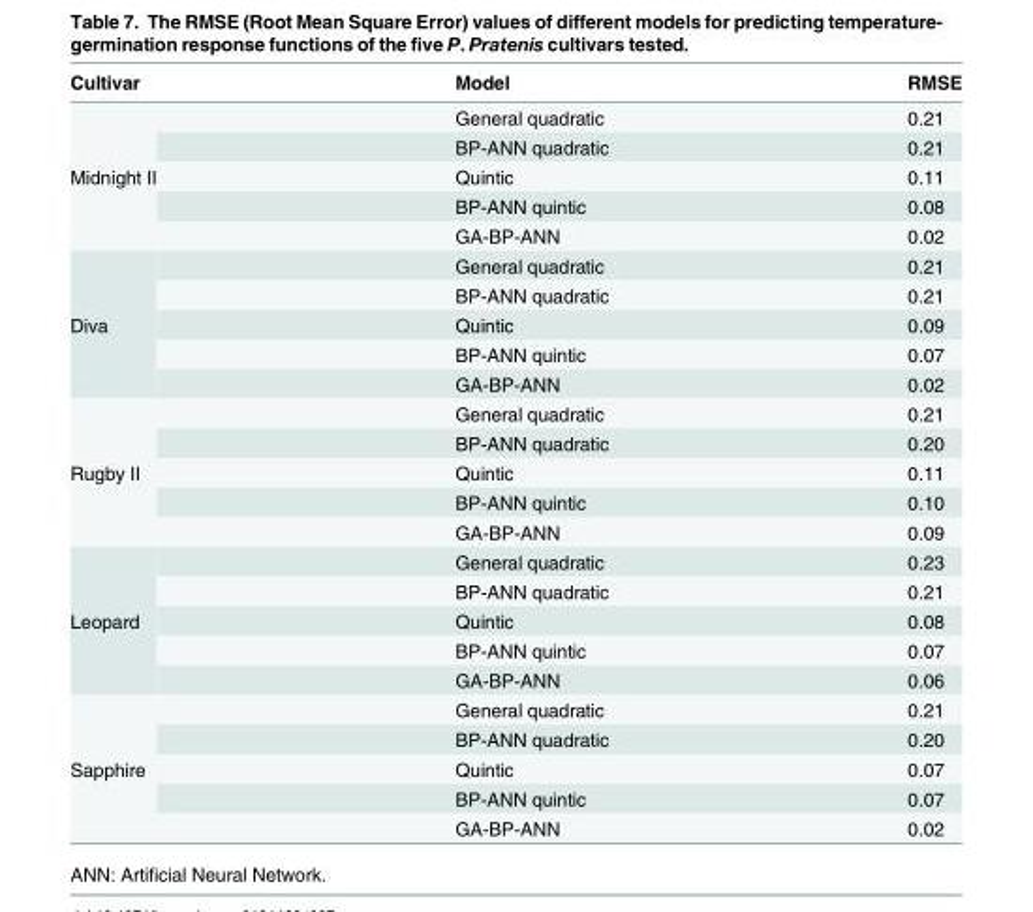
<table><thead><tr><td>Cultivar</td><td>Model</td><td>RMSE</td></tr></thead><tbody><tr><td rowspan="5">Midnight II</td><td>General quadratic</td><td>0.21</td></tr><tr><td>BP-ANN quadratic</td><td>0.21</td></tr><tr><td>Quintic</td><td>0.11</td></tr><tr><td>BP-ANN quintic</td><td>0.08</td></tr><tr><td>GA-BP-ANN</td><td>0.02</td></tr><tr><td rowspan="5">Diva</td><td>General quadratic</td><td>0.21</td></tr><tr><td>BP-ANN quadratic</td><td>0.21</td></tr><tr><td>Quintic</td><td>0.09</td></tr><tr><td>BP-ANN quintic</td><td>0.07</td></tr><tr><td>GA-BP-ANN</td><td>0.02</td></tr><tr><td rowspan="5">Rugby II</td><td>General quadratic</td><td>0.21</td></tr><tr><td>BP-ANN quadratic</td><td>0.20</td></tr><tr><td>Quintic</td><td>0.11</td></tr><tr><td>BP-ANN quintic</td><td>0.10</td></tr><tr><td>GA-BP-ANN</td><td>0.09</td></tr><tr><td rowspan="5">Leopard</td><td>General quadratic</td><td>0.23</td></tr><tr><td>BP-ANN quadratic</td><td>0.21</td></tr><tr><td>Quintic</td><td>0.08</td></tr><tr><td>BP-ANN quintic</td><td>0.07</td></tr><tr><td>GA-BP-ANN</td><td>0.06</td></tr><tr><td rowspan="5">Sapphire</td><td>General quadratic</td><td>0.21</td></tr><tr><td>BP-ANN quadratic</td><td>0.20</td></tr><tr><td>Quintic</td><td>0.07</td></tr><tr><td>BP-ANN quintic</td><td>0.07</td></tr><tr><td>GA-BP-ANN</td><td>0.02</td></tr></tbody></table>